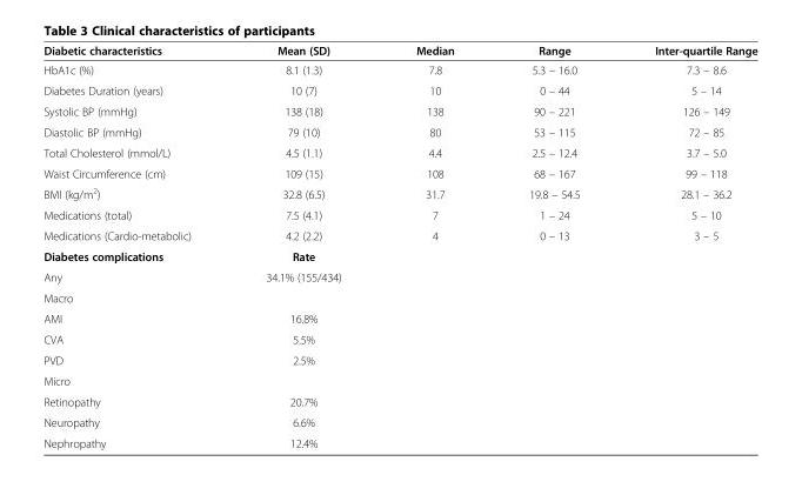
<table><thead><tr><td>Diabetic characteristics</td><td>Mean (SD)</td><td>Median</td><td>Range</td><td>Inter-quartile Range</td></tr></thead><tbody><tr><td>HbA1c (%)</td><td>8.1 (1.3)</td><td>7.8</td><td>5.3 – 16.0</td><td>7.3 – 8.6</td></tr><tr><td>Diabetes Duration (years)</td><td>10 (7)</td><td>10</td><td>0 – 44</td><td>5 – 14</td></tr><tr><td>Systolic BP (mmHg)</td><td>138 (18)</td><td>138</td><td>90 – 221</td><td>126 – 149</td></tr><tr><td>Diastolic BP (mmHg)</td><td>79 (10)</td><td>80</td><td>53 – 115</td><td>72 – 85</td></tr><tr><td>Total Cholesterol (mmol/L)</td><td>4.5 (1.1)</td><td>4.4</td><td>2.5 – 12.4</td><td>3.7 – 5.0</td></tr><tr><td>Waist Circumference (cm)</td><td>109 (15)</td><td>108</td><td>68 – 167</td><td>99 – 118</td></tr><tr><td>BMI (kg/m<sup>2</sup>)</td><td>32.8 (6.5)</td><td>31.7</td><td>19.8 – 54.5</td><td>28.1 – 36.2</td></tr><tr><td>Medications (total)</td><td>7.5 (4.1)</td><td>7</td><td>1 – 24</td><td>5 – 10</td></tr><tr><td>Medications (Cardio-metabolic)</td><td>4.2 (2.2)</td><td>4</td><td>0 – 13</td><td>3 – 5</td></tr><tr><td>Diabetes complications</td><td>Rate</td><td></td><td></td><td></td></tr><tr><td>Any</td><td>34.1% (155/434)</td><td></td><td></td><td></td></tr><tr><td colspan="2">Macro</td><td rowspan="4"></td><td rowspan="4"></td><td rowspan="4"></td></tr><tr><td>AMI</td><td>16.8%</td></tr><tr><td>CVA</td><td>5.5%</td></tr><tr><td>PVD</td><td>2.5%</td></tr><tr><td colspan="2">Micro</td><td rowspan="3"></td><td rowspan="3"></td><td rowspan="3"></td></tr><tr><td>Retinopathy</td><td>20.7%</td></tr><tr><td>Neuropathy</td><td>6.6%</td></tr><tr><td>Nephropathy</td><td>12.4%</td><td></td><td></td><td></td></tr></tbody></table>